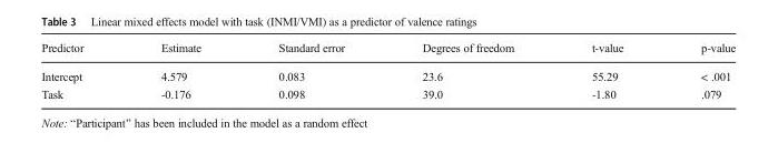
<table><thead><tr><td>Predictor</td><td>Estimate</td><td>Standard error</td><td>Degrees of freedom</td><td>t-value</td><td>p-value</td></tr></thead><tbody><tr><td>Intercept</td><td>4.579</td><td>0.083</td><td>23.6</td><td>55.29</td><td>&lt; .001</td></tr><tr><td>Task</td><td>-0.176</td><td>0.098</td><td>39.0</td><td>-1.80</td><td>.079</td></tr></tbody></table>